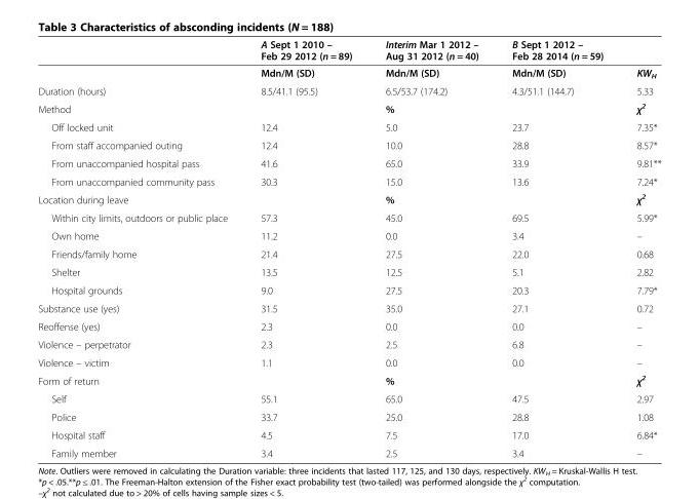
<table><thead><tr><td></td><td>A Sept 1 2010 – Feb 29 2012 (n = 89)</td><td>Interim Mar 1 2012 – Aug 31 2012 (n = 40)</td><td>B Sept 1 2012 – Feb 28 2014 (n = 59)</td><td></td></tr></thead><tbody><tr><td></td><td>Mdn/M (SD)</td><td>Mdn/M (SD)</td><td>Mdn/M (SD)</td><td>KW<sub>H</sub></td></tr><tr><td>Duration (hours)</td><td>8.5/41.1 (95.5)</td><td>6.5/53.7 (174.2)</td><td>4.3/51.1 (144.7)</td><td>5.33</td></tr><tr><td>Method</td><td></td><td>%</td><td></td><td>χ<sup>2</sup></td></tr><tr><td>Off locked unit</td><td>12.4</td><td>5.0</td><td>23.7</td><td>7.35*</td></tr><tr><td>From staff accompanied outing</td><td>12.4</td><td>10.0</td><td>28.8</td><td>8.57*</td></tr><tr><td>From unaccompanied hospital pass</td><td>41.6</td><td>65.0</td><td>33.9</td><td>9.81**</td></tr><tr><td>From unaccompanied community pass</td><td>30.3</td><td>15.0</td><td>13.6</td><td>7.24*</td></tr><tr><td>Location during leave</td><td></td><td>%</td><td></td><td>χ<sup>2</sup></td></tr><tr><td>Within city limits, outdoors or public place</td><td>57.3</td><td>45.0</td><td>69.5</td><td>5.99*</td></tr><tr><td>Own home</td><td>11.2</td><td>0.0</td><td>3.4</td><td>–</td></tr><tr><td>Friends/family home</td><td>21.4</td><td>27.5</td><td>22.0</td><td>0.68</td></tr><tr><td>Shelter</td><td>13.5</td><td>12.5</td><td>5.1</td><td>2.82</td></tr><tr><td>Hospital grounds</td><td>9.0</td><td>27.5</td><td>20.3</td><td>7.79*</td></tr><tr><td>Substance use (yes)</td><td>31.5</td><td>35.0</td><td>27.1</td><td>0.72</td></tr><tr><td>Reoffense (yes)</td><td>2.3</td><td>0.0</td><td>0.0</td><td>–</td></tr><tr><td>Violence – perpetrator</td><td>2.3</td><td>2.5</td><td>6.8</td><td>–</td></tr><tr><td>Violence – victim</td><td>1.1</td><td>0.0</td><td>0.0</td><td>–</td></tr><tr><td>Form of return</td><td></td><td>%</td><td></td><td>χ<sup>2</sup></td></tr><tr><td>Self</td><td>55.1</td><td>65.0</td><td>47.5</td><td>2.97</td></tr><tr><td>Police</td><td>33.7</td><td>25.0</td><td>28.8</td><td>1.08</td></tr><tr><td>Hospital staff</td><td>4.5</td><td>7.5</td><td>17.0</td><td>6.84*</td></tr><tr><td>Family member</td><td>3.4</td><td>2.5</td><td>3.4</td><td>–</td></tr></tbody></table>